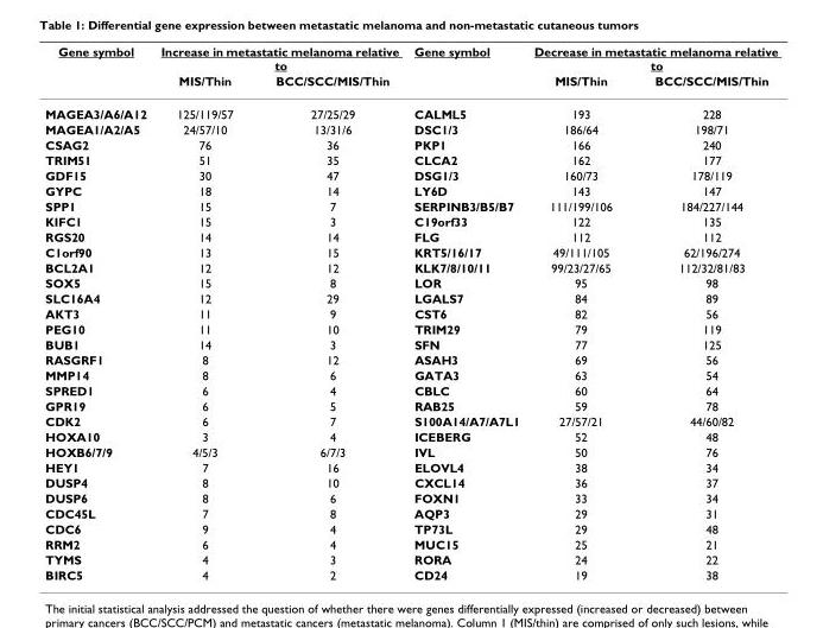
<table><thead><tr><td rowspan="2">Gene symbol</td><td colspan="2">Increase in metastatic melanoma relative to</td><td rowspan="2">Gene symbol</td><td colspan="2">Decrease in metastatic melanoma relative to</td></tr><tr><td>MIS/Thin</td><td>BCC/SCC/MIS/Thin</td><td>MIS/Thin</td><td>BCC/SCC/MIS/Thin</td></tr></thead><tbody><tr><td>MAGEA3/A6/A12</td><td>125/119/57</td><td>27/25/29</td><td>CALML5</td><td>193</td><td>228</td></tr><tr><td>MAGEA1/A2/A5</td><td>24/57/10</td><td>13/31/6</td><td>DSC1/3</td><td>186/64</td><td>198/71</td></tr><tr><td>CSAG2</td><td>76</td><td>36</td><td>PKP1</td><td>166</td><td>240</td></tr><tr><td>TRIM51</td><td>51</td><td>35</td><td>CLCA2</td><td>162</td><td>177</td></tr><tr><td>GDF15</td><td>30</td><td>47</td><td>DSG1/3</td><td>160/73</td><td>178/119</td></tr><tr><td>GYPC</td><td>18</td><td>14</td><td>LY6D</td><td>143</td><td>147</td></tr><tr><td>SPP1</td><td>15</td><td>7</td><td>SERPINB3/B5/B7</td><td>111/199/106</td><td>184/227/144</td></tr><tr><td>KIFC1</td><td>15</td><td>3</td><td>C19orf33</td><td>122</td><td>135</td></tr><tr><td>RGS20</td><td>14</td><td>14</td><td>FLG</td><td>112</td><td>112</td></tr><tr><td>C1orf90</td><td>13</td><td>15</td><td>KRT5/16/17</td><td>49/111/105</td><td>62/196/274</td></tr><tr><td>BCL2A1</td><td>12</td><td>12</td><td>KLK7/8/10/11</td><td>99/23/27/65</td><td>112/32/81/83</td></tr><tr><td>SOX5</td><td>15</td><td>8</td><td>LOR</td><td>95</td><td>98</td></tr><tr><td>SLC16A4</td><td>12</td><td>29</td><td>LGALS7</td><td>84</td><td>89</td></tr><tr><td>AKT3</td><td>11</td><td>9</td><td>CST6</td><td>82</td><td>56</td></tr><tr><td>PEG10</td><td>11</td><td>10</td><td>TRIM29</td><td>79</td><td>119</td></tr><tr><td>BUB1</td><td>14</td><td>3</td><td>SFN</td><td>77</td><td>125</td></tr><tr><td>RASGRF1</td><td>8</td><td>12</td><td>ASAH3</td><td>69</td><td>56</td></tr><tr><td>MMP14</td><td>8</td><td>6</td><td>GATA3</td><td>63</td><td>54</td></tr><tr><td>SPRED1</td><td>6</td><td>4</td><td>CBLC</td><td>60</td><td>64</td></tr><tr><td>GPR19</td><td>6</td><td>5</td><td>RAB25</td><td>59</td><td>78</td></tr><tr><td>CDK2</td><td>6</td><td>7</td><td>S100A14/A7/A7L1</td><td>27/57/21</td><td>44/60/82</td></tr><tr><td>HOXA10</td><td>3</td><td>4</td><td>ICEBERG</td><td>52</td><td>48</td></tr><tr><td>HOXB6/7/9</td><td>4/5/3</td><td>6/7/3</td><td>IVL</td><td>50</td><td>76</td></tr><tr><td>HEY1</td><td>7</td><td>16</td><td>ELOVL4</td><td>38</td><td>34</td></tr><tr><td>DUSP4</td><td>8</td><td>10</td><td>CXCL14</td><td>36</td><td>37</td></tr><tr><td>DUSP6</td><td>8</td><td>6</td><td>FOXN1</td><td>33</td><td>34</td></tr><tr><td>CDC45L</td><td>7</td><td>8</td><td>AQP3</td><td>29</td><td>31</td></tr><tr><td>CDC6</td><td>9</td><td>4</td><td>TP73L</td><td>29</td><td>48</td></tr><tr><td>RRM2</td><td>6</td><td>4</td><td>MUC15</td><td>25</td><td>21</td></tr><tr><td>TYMS</td><td>4</td><td>3</td><td>RORA</td><td>24</td><td>22</td></tr><tr><td>BIRC5</td><td>4</td><td>2</td><td>CD24</td><td>19</td><td>38</td></tr></tbody></table>